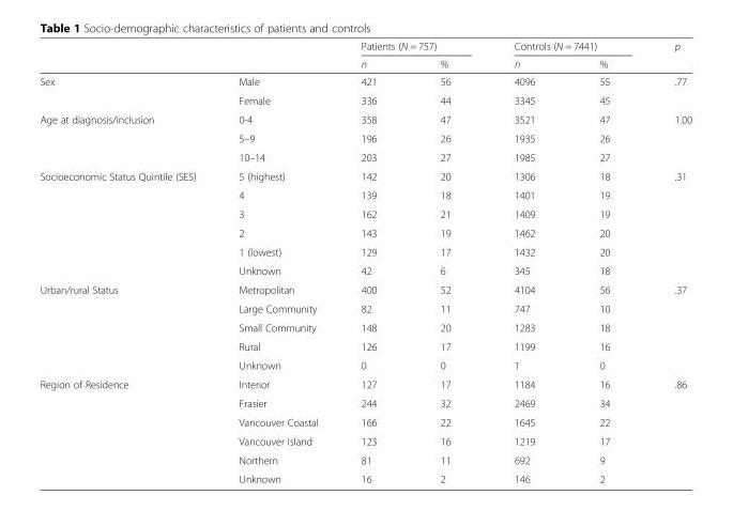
<table><thead><tr><td rowspan="2"></td><td rowspan="2"></td><td colspan="2">Patients (N = 757)</td><td colspan="2">Controls (N = 7441)</td><td rowspan="2">p</td></tr><tr><td>n</td><td>%</td><td>n</td><td>%</td></tr></thead><tbody><tr><td rowspan="2">Sex</td><td>Male</td><td>421</td><td>56</td><td>4096</td><td>55</td><td>.77</td></tr><tr><td>Female</td><td>336</td><td>44</td><td>3345</td><td>45</td><td></td></tr><tr><td rowspan="3">Age at diagnosis/inclusion</td><td>0-4</td><td>358</td><td>47</td><td>3521</td><td>47</td><td>1.00</td></tr><tr><td>5–9</td><td>196</td><td>26</td><td>1935</td><td>26</td><td></td></tr><tr><td>10–14</td><td>203</td><td>27</td><td>1985</td><td>27</td><td></td></tr><tr><td rowspan="6">Socioeconomic Status Quintile (SES)</td><td>5 (highest)</td><td>142</td><td>20</td><td>1306</td><td>18</td><td>.31</td></tr><tr><td>4</td><td>139</td><td>18</td><td>1401</td><td>19</td><td></td></tr><tr><td>3</td><td>162</td><td>21</td><td>1409</td><td>19</td><td></td></tr><tr><td>2</td><td>143</td><td>19</td><td>1462</td><td>20</td><td></td></tr><tr><td>1 (lowest)</td><td>129</td><td>17</td><td>1432</td><td>20</td><td></td></tr><tr><td>Unknown</td><td>42</td><td>6</td><td>345</td><td>18</td><td></td></tr><tr><td rowspan="5">Urban/rural Status</td><td>Metropolitan</td><td>400</td><td>52</td><td>4104</td><td>56</td><td>.37</td></tr><tr><td>Large Community</td><td>82</td><td>11</td><td>747</td><td>10</td><td></td></tr><tr><td>Small Community</td><td>148</td><td>20</td><td>1283</td><td>18</td><td></td></tr><tr><td>Rural</td><td>126</td><td>17</td><td>1199</td><td>16</td><td></td></tr><tr><td>Unknown</td><td>0</td><td>0</td><td>1</td><td>0</td><td></td></tr><tr><td rowspan="6">Region of Residence</td><td>Interior</td><td>127</td><td>17</td><td>1184</td><td>16</td><td>.86</td></tr><tr><td>Frasier</td><td>244</td><td>32</td><td>2469</td><td>34</td><td></td></tr><tr><td>Vancouver Coastal</td><td>166</td><td>22</td><td>1645</td><td>22</td><td></td></tr><tr><td>Vancouver Island</td><td>123</td><td>16</td><td>1219</td><td>17</td><td></td></tr><tr><td>Northern</td><td>81</td><td>11</td><td>692</td><td>9</td><td></td></tr><tr><td>Unknown</td><td>16</td><td>2</td><td>146</td><td>2</td><td></td></tr></tbody></table>